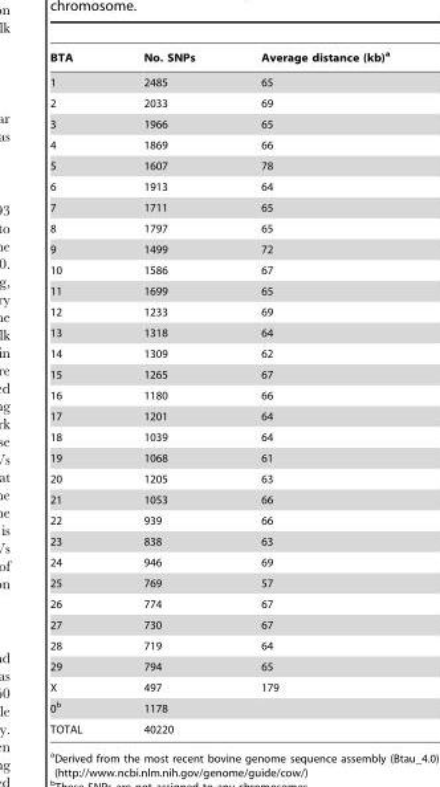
<table><thead><tr><td>BTA</td><td>No. SNPs</td><td>Average distance (kb)<sup>a</sup></td></tr></thead><tbody><tr><td>1</td><td>2485</td><td>65</td></tr><tr><td>2</td><td>2033</td><td>69</td></tr><tr><td>3</td><td>1966</td><td>65</td></tr><tr><td>4</td><td>1869</td><td>66</td></tr><tr><td>5</td><td>1607</td><td>78</td></tr><tr><td>6</td><td>1913</td><td>64</td></tr><tr><td>7</td><td>1711</td><td>65</td></tr><tr><td>8</td><td>1797</td><td>65</td></tr><tr><td>9</td><td>1499</td><td>72</td></tr><tr><td>10</td><td>1586</td><td>67</td></tr><tr><td>11</td><td>1699</td><td>65</td></tr><tr><td>12</td><td>1233</td><td>69</td></tr><tr><td>13</td><td>1318</td><td>64</td></tr><tr><td>14</td><td>1309</td><td>62</td></tr><tr><td>15</td><td>1265</td><td>67</td></tr><tr><td>16</td><td>1180</td><td>66</td></tr><tr><td>17</td><td>1201</td><td>64</td></tr><tr><td>18</td><td>1039</td><td>64</td></tr><tr><td>19</td><td>1068</td><td>61</td></tr><tr><td>20</td><td>1205</td><td>63</td></tr><tr><td>21</td><td>1053</td><td>66</td></tr><tr><td>22</td><td>939</td><td>66</td></tr><tr><td>23</td><td>838</td><td>63</td></tr><tr><td>24</td><td>946</td><td>69</td></tr><tr><td>25</td><td>769</td><td>57</td></tr><tr><td>26</td><td>774</td><td>67</td></tr><tr><td>27</td><td>730</td><td>67</td></tr><tr><td>28</td><td>719</td><td>64</td></tr><tr><td>29</td><td>794</td><td>65</td></tr><tr><td>X</td><td>497</td><td>179</td></tr><tr><td>0<sup>b</sup></td><td>1178</td><td></td></tr><tr><td>TOTAL</td><td>40220</td><td></td></tr></tbody></table>